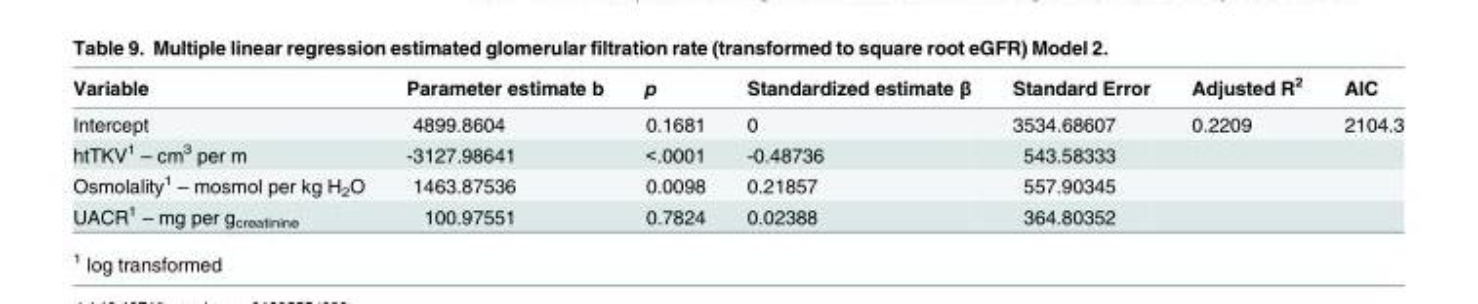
<table><thead><tr><td>Variable</td><td>Parameter estimate b</td><td>p</td><td>Standardized estimate β</td><td>Standard Error</td><td>Adjusted R<sup>2</sup></td><td>AIC</td></tr></thead><tbody><tr><td>Intercept</td><td>4899.8604</td><td>0.1681</td><td>0</td><td>3534.68607</td><td>0.2209</td><td>2104.3</td></tr><tr><td>htTKV<sup>1</sup> – cm<sup>3</sup> per m</td><td>-3127.98641</td><td>&lt;.0001</td><td>-0.48736</td><td>543.58333</td><td></td><td></td></tr><tr><td>Osmolality<sup>1</sup> – mosmol per kg H<sub>2</sub>O</td><td>1463.87536</td><td>0.0098</td><td>0.21857</td><td>557.90345</td><td></td><td></td></tr><tr><td>UACR<sup>1</sup> – mg per g<sub>creatinine</sub></td><td>100.97551</td><td>0.7824</td><td>0.02388</td><td>364.80352</td><td></td><td></td></tr></tbody></table>